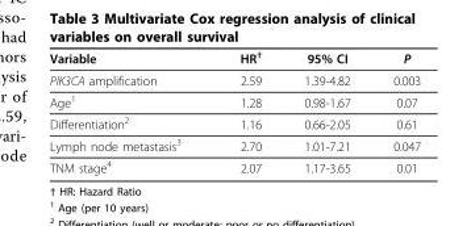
<table><thead><tr><td>Variable</td><td>HR<sup>†</sup></td><td>95% CI</td><td>P</td></tr></thead><tbody><tr><td>PIK3CA amplification</td><td>2.59</td><td>1.39-4.82</td><td>0.003</td></tr><tr><td>Age<sup>1</sup></td><td>1.28</td><td>0.98-1.67</td><td>0.07</td></tr><tr><td>Differentiation<sup>2</sup></td><td>1.16</td><td>0.66-2.05</td><td>0.61</td></tr><tr><td>Lymph node metastasis<sup>3</sup></td><td>2.70</td><td>1.01-7.21</td><td>0.047</td></tr><tr><td>TNM stage<sup>4</sup></td><td>2.07</td><td>1.17-3.65</td><td>0.01</td></tr></tbody></table>